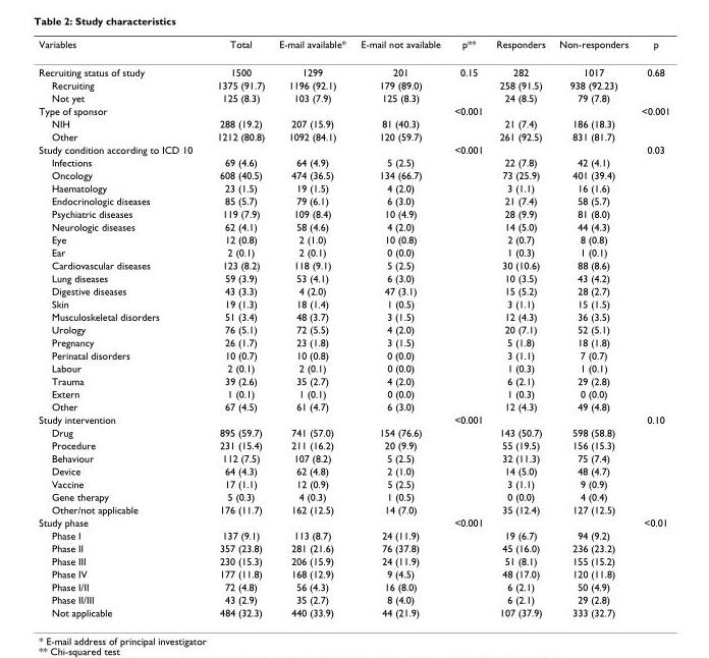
<table><thead><tr><td>Variables</td><td>Total</td><td>E-mail available*</td><td>E-mail not available</td><td>p**</td><td>Responders</td><td>Non-responders</td><td>p</td></tr></thead><tbody><tr><td>Recruiting status of study</td><td>1500</td><td>1299</td><td>201</td><td>0.15</td><td>282</td><td>1017</td><td>0.68</td></tr><tr><td>Recruiting</td><td>1375 (91.7)</td><td>1196 (92.1)</td><td>179 (89.0)</td><td></td><td>258 (91.5)</td><td>938 (92.23)</td><td></td></tr><tr><td>Not yet</td><td>125 (8.3)</td><td>103 (7.9)</td><td>125 (8.3)</td><td></td><td>24 (8.5)</td><td>79 (7.8)</td><td></td></tr><tr><td>Type of sponsor</td><td></td><td></td><td></td><td>&lt;0.001</td><td></td><td></td><td>&lt;0.001</td></tr><tr><td>NIH</td><td>288 (19.2)</td><td>207 (15.9)</td><td>81 (40.3)</td><td></td><td>21 (7.4)</td><td>186 (18.3)</td><td></td></tr><tr><td>Other</td><td>1212 (80.8)</td><td>1092 (84.1)</td><td>120 (59.7)</td><td></td><td>261 (92.5)</td><td>831 (81.7)</td><td></td></tr><tr><td>Study condition according to ICD 10</td><td></td><td></td><td></td><td>&lt;0.001</td><td></td><td></td><td>0.03</td></tr><tr><td>Infections</td><td>69 (4.6)</td><td>64 (4.9)</td><td>5 (2.5)</td><td></td><td>22 (7.8)</td><td>42 (4.1)</td><td></td></tr><tr><td>Oncology</td><td>608 (40.5)</td><td>474 (36.5)</td><td>134 (66.7)</td><td></td><td>73 (25.9)</td><td>401 (39.4)</td><td></td></tr><tr><td>Haematology</td><td>23 (1.5)</td><td>19 (1.5)</td><td>4 (2.0)</td><td></td><td>3 (1.1)</td><td>16 (1.6)</td><td></td></tr><tr><td>Endocrinologic diseases</td><td>85 (5.7)</td><td>79 (6.1)</td><td>6 (3.0)</td><td></td><td>21 (7.4)</td><td>58 (5.7)</td><td></td></tr><tr><td>Psychiatric diseases</td><td>119 (7.9)</td><td>109 (8.4)</td><td>10 (4.9)</td><td></td><td>28 (9.9)</td><td>81 (8.0)</td><td></td></tr><tr><td>Neurologic diseases</td><td>62 (4.1)</td><td>58 (4.6)</td><td>4 (2.0)</td><td></td><td>14 (5.0)</td><td>44 (4.3)</td><td></td></tr><tr><td>Eye</td><td>12 (0.8)</td><td>2 (1.0)</td><td>10 (0.8)</td><td></td><td>2 (0.7)</td><td>8 (0.8)</td><td></td></tr><tr><td>Ear</td><td>2 (0.1)</td><td>2 (0.1)</td><td>0 (0.0)</td><td></td><td>1 (0.3)</td><td>1 (0.1)</td><td></td></tr><tr><td>Cardiovascular diseases</td><td>123 (8.2)</td><td>118 (9.1)</td><td>5 (2.5)</td><td></td><td>30 (10.6)</td><td>88 (8.6)</td><td></td></tr><tr><td>Lung diseases</td><td>59 (3.9)</td><td>53 (4.1)</td><td>6 (3.0)</td><td></td><td>10 (3.5)</td><td>43 (4.2)</td><td></td></tr><tr><td>Digestive diseases</td><td>43 (3.3)</td><td>4 (2.0)</td><td>47 (3.1)</td><td></td><td>15 (5.2)</td><td>28 (2.7)</td><td></td></tr><tr><td>Skin</td><td>19 (1.3)</td><td>18 (1.4)</td><td>1 (0.5)</td><td></td><td>3 (1.1)</td><td>15 (1.5)</td><td></td></tr><tr><td>Musculoskeletal disorders</td><td>51 (3.4)</td><td>48 (3.7)</td><td>3 (1.5)</td><td></td><td>12 (4.3)</td><td>36 (3.5)</td><td></td></tr><tr><td>Urology</td><td>76 (5.1)</td><td>72 (5.5)</td><td>4 (2.0)</td><td></td><td>20 (7.1)</td><td>52 (5.1)</td><td></td></tr><tr><td>Pregnancy</td><td>26 (1.7)</td><td>23 (1.8)</td><td>3 (1.5)</td><td></td><td>5 (1.8)</td><td>18 (1.8)</td><td></td></tr><tr><td>Perinatal disorders</td><td>10 (0.7)</td><td>10 (0.8)</td><td>0 (0.0)</td><td></td><td>3 (1.1)</td><td>7 (0.7)</td><td></td></tr><tr><td>Labour</td><td>2 (0.1)</td><td>2 (0.1)</td><td>0 (0.0)</td><td></td><td>1 (0.3)</td><td>1 (0.1)</td><td></td></tr><tr><td>Trauma</td><td>39 (2.6)</td><td>35 (2.7)</td><td>4 (2.0)</td><td></td><td>6 (2.1)</td><td>29 (2.8)</td><td></td></tr><tr><td>Extern</td><td>1 (0.1)</td><td>1 (0.1)</td><td>0 (0.0)</td><td></td><td>1 (0.3)</td><td>0 (0.0)</td><td></td></tr><tr><td>Other</td><td>67 (4.5)</td><td>61 (4.7)</td><td>6 (3.0)</td><td></td><td>12 (4.3)</td><td>49 (4.8)</td><td></td></tr><tr><td>Study intervention</td><td></td><td></td><td></td><td>&lt;0.001</td><td></td><td></td><td>0.10</td></tr><tr><td>Drug</td><td>895 (59.7)</td><td>741 (57.0)</td><td>154 (76.6)</td><td></td><td>143 (50.7)</td><td>598 (58.8)</td><td></td></tr><tr><td>Procedure</td><td>231 (15.4)</td><td>211 (16.2)</td><td>20 (9.9)</td><td></td><td>55 (19.5)</td><td>156 (15.3)</td><td></td></tr><tr><td>Behaviour</td><td>112 (7.5)</td><td>107 (8.2)</td><td>5 (2.5)</td><td></td><td>32 (11.3)</td><td>75 (7.4)</td><td></td></tr><tr><td>Device</td><td>64 (4.3)</td><td>62 (4.8)</td><td>2 (1.0)</td><td></td><td>14 (5.0)</td><td>48 (4.7)</td><td></td></tr><tr><td>Vaccine</td><td>17 (1.1)</td><td>12 (0.9)</td><td>5 (2.5)</td><td></td><td>3 (1.1)</td><td>9 (0.9)</td><td></td></tr><tr><td>Gene therapy</td><td>5 (0.3)</td><td>4 (0.3)</td><td>1 (0.5)</td><td></td><td>0 (0.0)</td><td>4 (0.4)</td><td></td></tr><tr><td>Other/not applicable</td><td>176 (11.7)</td><td>162 (12.5)</td><td>14 (7.0)</td><td></td><td>35 (12.4)</td><td>127 (12.5)</td><td></td></tr><tr><td>Study phase</td><td></td><td></td><td></td><td>&lt;0.001</td><td></td><td></td><td>&lt;0.01</td></tr><tr><td>Phase I</td><td>137 (9.1)</td><td>113 (8.7)</td><td>24 (11.9)</td><td></td><td>19 (6.7)</td><td>94 (9.2)</td><td></td></tr><tr><td>Phase II</td><td>357 (23.8)</td><td>281 (21.6)</td><td>76 (37.8)</td><td></td><td>45 (16.0)</td><td>236 (23.2)</td><td></td></tr><tr><td>Phase III</td><td>230 (15.3)</td><td>206 (15.9)</td><td>24 (11.9)</td><td></td><td>51 (8.1)</td><td>155 (15.2)</td><td></td></tr><tr><td>Phase IV</td><td>177 (11.8)</td><td>168 (12.9)</td><td>9 (4.5)</td><td></td><td>48 (17.0)</td><td>120 (11.8)</td><td></td></tr><tr><td>Phase I/II</td><td>72 (4.8)</td><td>56 (4.3)</td><td>16 (8.0)</td><td></td><td>6 (2.1)</td><td>50 (4.9)</td><td></td></tr><tr><td>Phase II/III</td><td>43 (2.9)</td><td>35 (2.7)</td><td>8 (4.0)</td><td></td><td>6 (2.1)</td><td>29 (2.8)</td><td></td></tr><tr><td>Not applicable</td><td>484 (32.3)</td><td>440 (33.9)</td><td>44 (21.9)</td><td></td><td>107 (37.9)</td><td>333 (32.7)</td><td></td></tr></tbody></table>